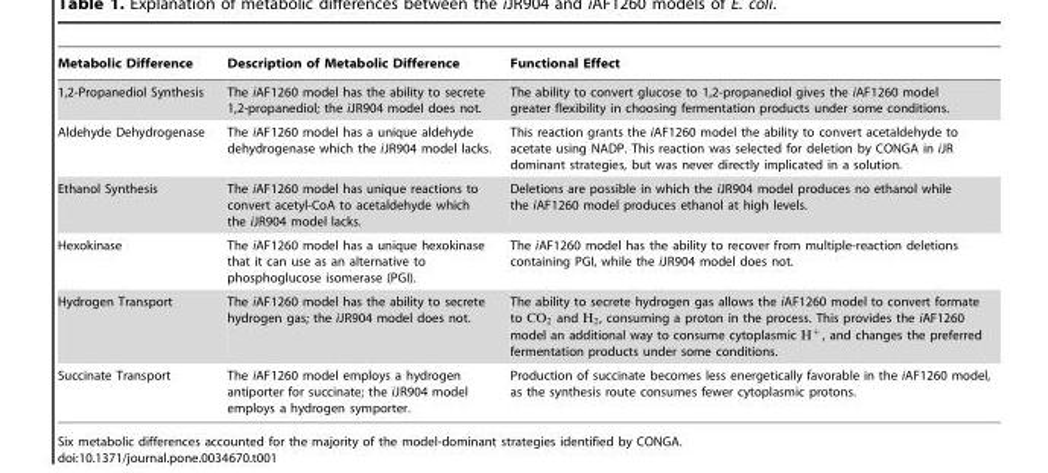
<table><thead><tr><td>Metabolic Difference</td><td>Description of Metabolic Difference</td><td>Functional Effect</td></tr></thead><tbody><tr><td>1,2-Propanediol Synthesis</td><td>The iAF1260 model has the ability to secrete 1,2-propanediol; the iJR904 model does not.</td><td>The ability to convert glucose to 1,2-propanediol gives the iAF1260 model greater flexibility in choosing fermentation products under some conditions.</td></tr><tr><td>Aldehyde Dehydrogenase</td><td>The iAF1260 model has a unique aldehyde dehydrogenase which the iJR904 model lacks.</td><td>This reaction grants the iAF1260 model the ability to convert acetaldehyde to acetate using NADP. This reaction was selected for deletion by CONGA in iJR dominant strategies, but was never directly implicated in a solution.</td></tr><tr><td>Ethanol Synthesis</td><td>The iAF1260 model has unique reactions to convert acetyl-CoA to acetaldehyde which the iJR904 model lacks.</td><td>Deletions are possible in which the iJR904 model produces no ethanol while the iAF1260 model produces ethanol at high levels.</td></tr><tr><td>Hexokinase</td><td>The iAF1260 model has a unique hexokinase that it can use as an alternative to phosphoglucose isomerase (PGI).</td><td>The iAF1260 model has the ability to recover from multiple-reaction deletions containing PGI, while the iJR904 model does not.</td></tr><tr><td>Hydrogen Transport</td><td>The iAF1260 model has the ability to secrete hydrogen gas; the iJR904 model does not.</td><td>The ability to secrete hydrogen gas allows the iAF1260 model to convert formate to CO2 and H2, consuming a proton in the process. This provides the iAF1260 model an additional way to consume cytoplasmic Hz, and changes the preferred fermentation products under some conditions.</td></tr><tr><td>Succinate Transport</td><td>The iAF1260 model employs a hydrogen antiporter for succinate; the iJR904 model employs a hydrogen symporter.</td><td>Production of succinate becomes less energetically favorable in the iAF1260 model, as the synthesis route consumes fewer cytoplasmic protons.</td></tr></tbody></table>